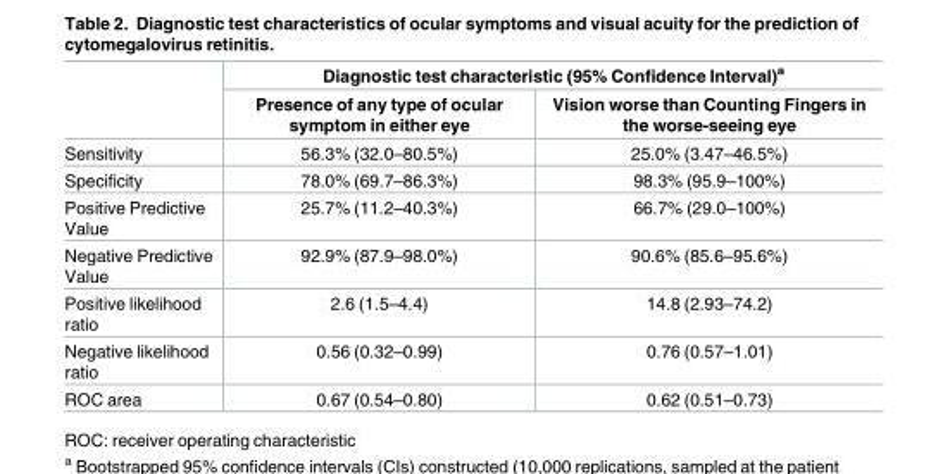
<table><thead><tr><td rowspan="2"></td><td colspan="2">Diagnostic test characteristic (95% Confidence Interval)<sup>a</sup></td></tr><tr><td>Presence of any type of ocular symptom in either eye</td><td>Vision worse than Counting Fingers in the worse-seeing eye</td></tr></thead><tbody><tr><td>Sensitivity</td><td>56.3% (32.0–80.5%)</td><td>25.0% (3.47–46.5%)</td></tr><tr><td>Specificity</td><td>78.0% (69.7–86.3%)</td><td>98.3% (95.9–100%)</td></tr><tr><td>Positive Predictive Value</td><td>25.7% (11.2–40.3%)</td><td>66.7% (29.0–100%)</td></tr><tr><td>Negative Predictive Value</td><td>92.9% (87.9–98.0%)</td><td>90.6% (85.6–95.6%)</td></tr><tr><td>Positive likelihood ratio</td><td>2.6 (1.5–4.4)</td><td>14.8 (2.93–74.2)</td></tr><tr><td>Negative likelihood ratio</td><td>0.56 (0.32–0.99)</td><td>0.76 (0.57–1.01)</td></tr><tr><td>ROC area</td><td>0.67 (0.54–0.80)</td><td>0.62 (0.51–0.73)</td></tr></tbody></table>